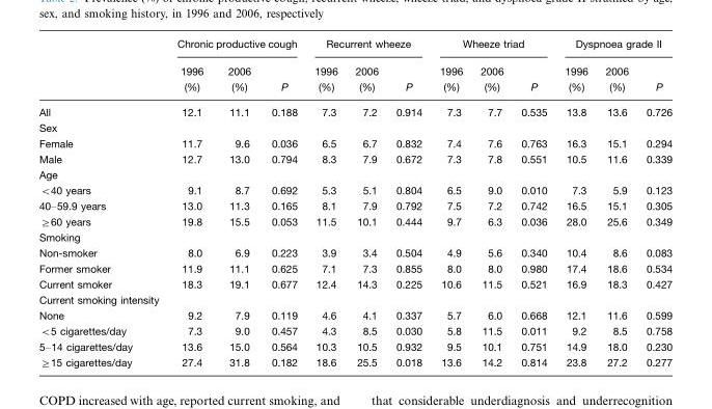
<table><thead><tr><td rowspan="2"></td><td colspan="3">Chronic productive cough</td><td colspan="3">Recurrent wheeze</td><td colspan="3">Wheeze triad</td><td colspan="3">Dyspnoea grade II</td></tr><tr><td>1996 (%)</td><td>2006 (%)</td><td>P</td><td>1996 (%)</td><td>2006 (%)</td><td>P</td><td>1996 (%)</td><td>2006 (%)</td><td>P</td><td>1996 (%)</td><td>2006 (%)</td><td>P</td></tr></thead><tbody><tr><td>All</td><td>12.1</td><td>11.1</td><td>0.188</td><td>7.3</td><td>7.2</td><td>0.914</td><td>7.3</td><td>7.7</td><td>0.535</td><td>13.8</td><td>13.6</td><td>0.726</td></tr><tr><td colspan="13">Sex</td></tr><tr><td>Female</td><td>11.7</td><td>9.6</td><td>0.036</td><td>6.5</td><td>6.7</td><td>0.832</td><td>7.4</td><td>7.6</td><td>0.763</td><td>16.3</td><td>15.1</td><td>0.294</td></tr><tr><td>Male</td><td>12.7</td><td>13.0</td><td>0.794</td><td>8.3</td><td>7.9</td><td>0.672</td><td>7.3</td><td>7.8</td><td>0.551</td><td>10.5</td><td>11.6</td><td>0.339</td></tr><tr><td colspan="13">Age</td></tr><tr><td>&lt;40 years</td><td>9.1</td><td>8.7</td><td>0.692</td><td>5.3</td><td>5.1</td><td>0.804</td><td>6.5</td><td>9.0</td><td>0.010</td><td>7.3</td><td>5.9</td><td>0.123</td></tr><tr><td>40–59.9 years</td><td>13.0</td><td>11.3</td><td>0.165</td><td>8.1</td><td>7.9</td><td>0.792</td><td>7.5</td><td>7.2</td><td>0.742</td><td>16.5</td><td>15.1</td><td>0.305</td></tr><tr><td>≥60 years</td><td>19.8</td><td>15.5</td><td>0.053</td><td>11.5</td><td>10.1</td><td>0.444</td><td>9.7</td><td>6.3</td><td>0.036</td><td>28.0</td><td>25.6</td><td>0.349</td></tr><tr><td colspan="13">Smoking</td></tr><tr><td>Non-smoker</td><td>8.0</td><td>6.9</td><td>0.223</td><td>3.9</td><td>3.4</td><td>0.504</td><td>4.9</td><td>5.6</td><td>0.340</td><td>10.4</td><td>8.6</td><td>0.083</td></tr><tr><td>Former smoker</td><td>11.9</td><td>11.1</td><td>0.625</td><td>7.1</td><td>7.3</td><td>0.855</td><td>8.0</td><td>8.0</td><td>0.980</td><td>17.4</td><td>18.6</td><td>0.534</td></tr><tr><td>Current smoker</td><td>18.3</td><td>19.1</td><td>0.677</td><td>12.4</td><td>14.3</td><td>0.225</td><td>10.6</td><td>11.5</td><td>0.521</td><td>16.9</td><td>18.3</td><td>0.427</td></tr><tr><td colspan="13">Current smoking intensity</td></tr><tr><td>None</td><td>9.2</td><td>7.9</td><td>0.119</td><td>4.6</td><td>4.1</td><td>0.337</td><td>5.7</td><td>6.0</td><td>0.668</td><td>12.1</td><td>11.6</td><td>0.599</td></tr><tr><td>&lt;5 cigarettes/day</td><td>7.3</td><td>9.0</td><td>0.457</td><td>4.3</td><td>8.5</td><td>0.030</td><td>5.8</td><td>11.5</td><td>0.011</td><td>9.2</td><td>8.5</td><td>0.758</td></tr><tr><td>5–14 cigarettes/day</td><td>13.6</td><td>15.0</td><td>0.564</td><td>10.3</td><td>10.5</td><td>0.932</td><td>9.5</td><td>10.1</td><td>0.751</td><td>14.9</td><td>18.0</td><td>0.230</td></tr><tr><td>≥15 cigarettes/day</td><td>27.4</td><td>31.8</td><td>0.182</td><td>18.6</td><td>25.5</td><td>0.018</td><td>13.6</td><td>14.2</td><td>0.814</td><td>23.8</td><td>27.2</td><td>0.277</td></tr></tbody></table>